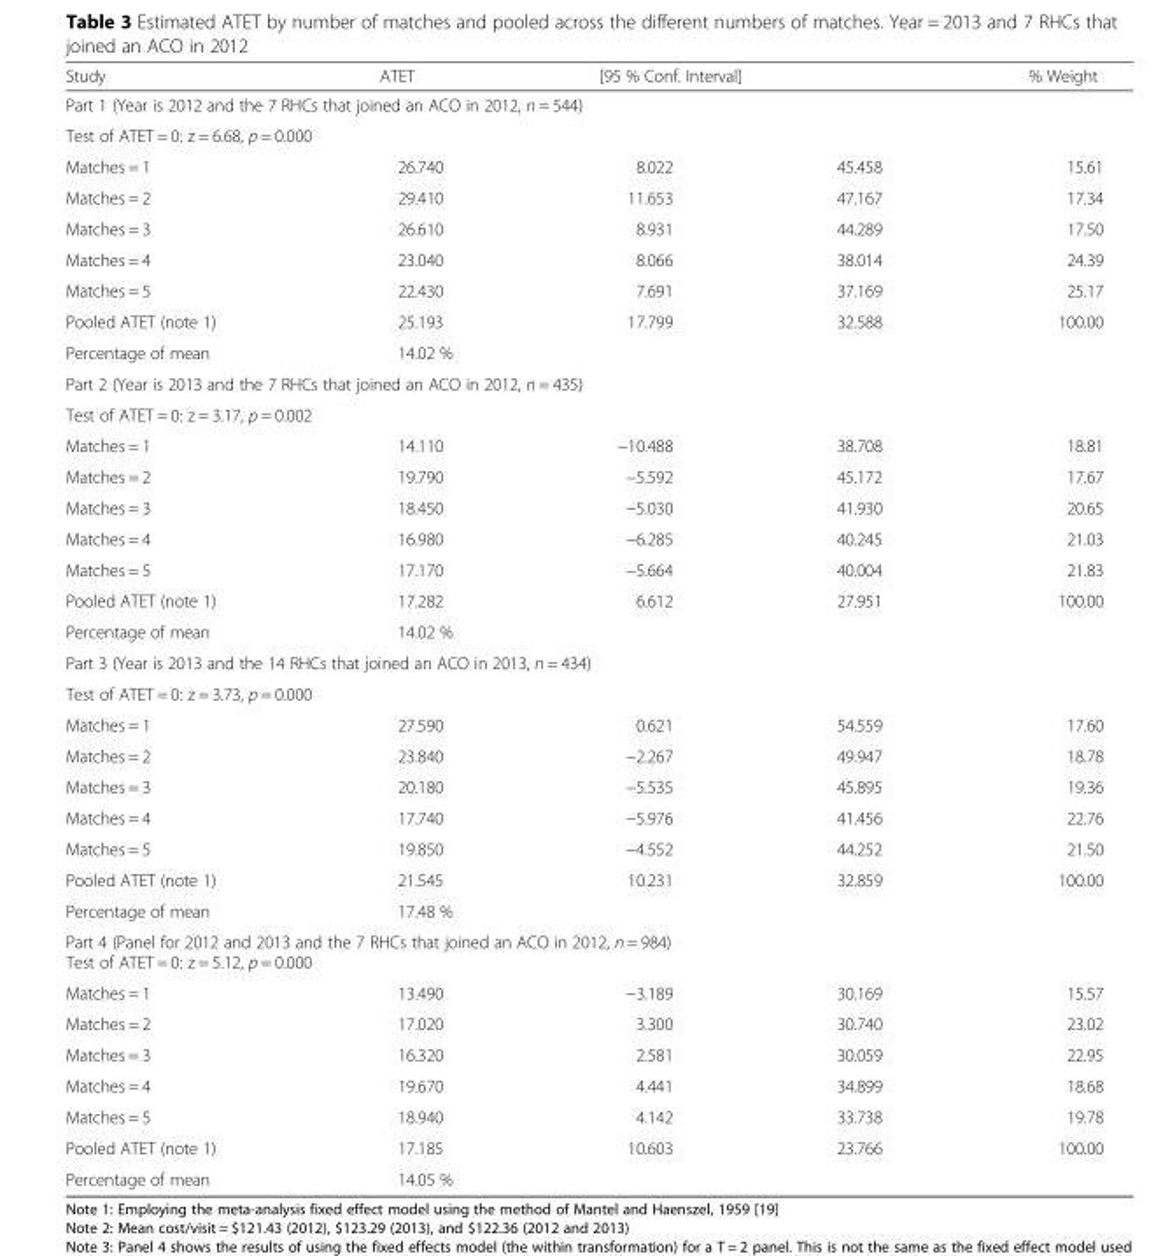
<table><thead><tr><td>Study</td><td>ATET</td><td colspan="2">[95 % Conf. Interval]</td><td>% Weight</td></tr><tr><td rowspan="2" colspan="5">Part 1 (Year is 2012 and the 7 RHCs that joined an ACO in 2012, n = 544) Test of ATET = 0: z = 6.68, p = 0.000</td></tr><tr></tr><tr><td>Matches = 1</td><td>26.740</td><td>8.022</td><td>45.458</td><td>15.61</td></tr></thead><tbody><tr><td>Matches = 2</td><td>29.410</td><td>11.653</td><td>47.167</td><td>17.34</td></tr><tr><td>Matches = 3</td><td>26.610</td><td>8.931</td><td>44.289</td><td>17.50</td></tr><tr><td>Matches = 4</td><td>23.040</td><td>8.066</td><td>38.014</td><td>24.39</td></tr><tr><td>Matches = 5</td><td>22.430</td><td>7.691</td><td>37.169</td><td>25.17</td></tr><tr><td>Pooled ATET (note 1)</td><td>25.193</td><td rowspan="2">17.799</td><td rowspan="2">32.588</td><td rowspan="2">100.00</td></tr><tr><td>Percentage of mean</td><td>14.02 %</td></tr><tr><td colspan="5">Part 2 (Year is 2013 and the 7 RHCs that joined an ACO in 2012, n = 435)</td></tr><tr><td colspan="5">Test of ATET = 0: z = 3.17, p = 0.002</td></tr><tr><td>Matches = 1</td><td>14.110</td><td>−10.488</td><td>38.708</td><td>18.81</td></tr><tr><td>Matches = 2</td><td>19.790</td><td>−5.592</td><td>45.172</td><td>17.67</td></tr><tr><td>Matches = 3</td><td>18.450</td><td>−5.030</td><td>41.930</td><td>20.65</td></tr><tr><td>Matches = 4</td><td>16.980</td><td>−6.285</td><td>40.245</td><td>21.03</td></tr><tr><td>Matches = 5</td><td>17.170</td><td>−5.664</td><td>40.004</td><td>21.83</td></tr><tr><td>Pooled ATET (note 1)</td><td>17.282</td><td rowspan="2">6.612</td><td rowspan="2">27.951</td><td rowspan="2">100.00</td></tr><tr><td>Percentage of mean</td><td>14.02 %</td></tr><tr><td colspan="5">Part 3 (Year is 2013 and the 14 RHCs that joined an ACO in 2013, n = 434)</td></tr><tr><td colspan="5">Test of ATET = 0: z = 3.73, p = 0.000</td></tr><tr><td>Matches = 1</td><td>27.590</td><td>0.621</td><td>54.559</td><td>17.60</td></tr><tr><td>Matches = 2</td><td>23.840</td><td>−2.267</td><td>49.947</td><td>18.78</td></tr><tr><td>Matches = 3</td><td>20.180</td><td>−5.535</td><td>45.895</td><td>19.36</td></tr><tr><td>Matches = 4</td><td>17.740</td><td>−5.976</td><td>41.456</td><td>22.76</td></tr><tr><td>Matches = 5</td><td>19.850</td><td>−4.552</td><td>44.252</td><td>21.50</td></tr><tr><td>Pooled ATET (note 1)</td><td>21.545</td><td>10.231</td><td>32.859</td><td>100.00</td></tr><tr><td>Percentage of mean</td><td>17.48 %</td><td></td><td></td><td></td></tr><tr><td colspan="5">Part 4 (Panel for 2012 and 2013 and the 7 RHCs that joined an ACO in 2012, n = 984) Test of ATET = 0: z = 5.12, p = 0.000</td></tr><tr><td>Matches = 1</td><td>13.490</td><td>−3.189</td><td>30.169</td><td>15.57</td></tr><tr><td>Matches = 2</td><td>17.020</td><td>3.300</td><td>30.740</td><td>23.02</td></tr><tr><td>Matches = 3</td><td>16.320</td><td>2.581</td><td>30.059</td><td>22.95</td></tr><tr><td>Matches = 4</td><td>19.670</td><td>4.441</td><td>34.899</td><td>18.68</td></tr><tr><td>Matches = 5</td><td>18.940</td><td>4.142</td><td>33.738</td><td>19.78</td></tr><tr><td>Pooled ATET (note 1)</td><td>17.185</td><td>10.603</td><td>23.766</td><td>100.00</td></tr><tr><td>Percentage of mean</td><td>14.05 %</td><td></td><td></td><td></td></tr></tbody></table>